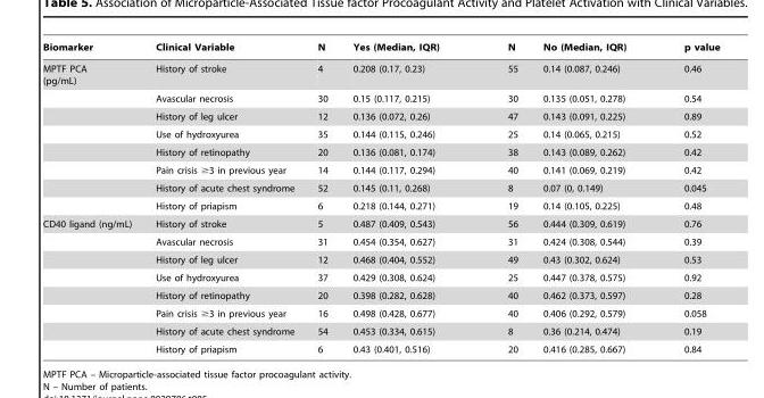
<table><thead><tr><td>Biomarker</td><td>Clinical Variable</td><td>N</td><td>Yes (Median, IQR)</td><td>N</td><td>No (Median, IQR)</td><td>p value</td></tr></thead><tbody><tr><td rowspan="8">MPTF PCA (pg/mL)</td><td>History of stroke</td><td>4</td><td>0.208 (0.17, 0.23)</td><td>55</td><td>0.14 (0.087, 0.246)</td><td>0.46</td></tr><tr><td>Avascular necrosis</td><td>30</td><td>0.15 (0.117, 0.215)</td><td>30</td><td>0.135 (0.051, 0.278)</td><td>0.54</td></tr><tr><td>History of leg ulcer</td><td>12</td><td>0.136 (0.072, 0.26)</td><td>47</td><td>0.143 (0.091, 0.225)</td><td>0.89</td></tr><tr><td>Use of hydroxyurea</td><td>35</td><td>0.144 (0.115, 0.246)</td><td>25</td><td>0.14 (0.065, 0.215)</td><td>0.52</td></tr><tr><td>History of retinopathy</td><td>20</td><td>0.136 (0.081, 0.174)</td><td>38</td><td>0.143 (0.089, 0.262)</td><td>0.42</td></tr><tr><td>Pain crisis ≥3 in previous year</td><td>14</td><td>0.144 (0.117, 0.294)</td><td>40</td><td>0.141 (0.069, 0.219)</td><td>0.42</td></tr><tr><td>History of acute chest syndrome</td><td>52</td><td>0.145 (0.11, 0.268)</td><td>8</td><td>0.07 (0, 0.149)</td><td>0.045</td></tr><tr><td>History of priapism</td><td>6</td><td>0.218 (0.144, 0.271)</td><td>19</td><td>0.14 (0.105, 0.225)</td><td>0.48</td></tr><tr><td rowspan="8">CD40 ligand (ng/mL)</td><td>History of stroke</td><td>5</td><td>0.487 (0.409, 0.543)</td><td>56</td><td>0.444 (0.309, 0.619)</td><td>0.76</td></tr><tr><td>Avascular necrosis</td><td>31</td><td>0.454 (0.354, 0.627)</td><td>31</td><td>0.424 (0.308, 0.544)</td><td>0.39</td></tr><tr><td>History of leg ulcer</td><td>12</td><td>0.468 (0.404, 0.552)</td><td>49</td><td>0.43 (0.302, 0.624)</td><td>0.53</td></tr><tr><td>Use of hydroxyurea</td><td>37</td><td>0.429 (0.308, 0.624)</td><td>25</td><td>0.447 (0.378, 0.575)</td><td>0.92</td></tr><tr><td>History of retinopathy</td><td>20</td><td>0.398 (0.282, 0.628)</td><td>40</td><td>0.462 (0.373, 0.597)</td><td>0.28</td></tr><tr><td>Pain crisis ≥3 in previous year</td><td>16</td><td>0.498 (0.428, 0.677)</td><td>40</td><td>0.406 (0.292, 0.579)</td><td>0.058</td></tr><tr><td>History of acute chest syndrome</td><td>54</td><td>0.453 (0.334, 0.615)</td><td>8</td><td>0.36 (0.214, 0.474)</td><td>0.19</td></tr><tr><td>History of priapism</td><td>6</td><td>0.43 (0.401, 0.516)</td><td>20</td><td>0.416 (0.285, 0.667)</td><td>0.84</td></tr></tbody></table>